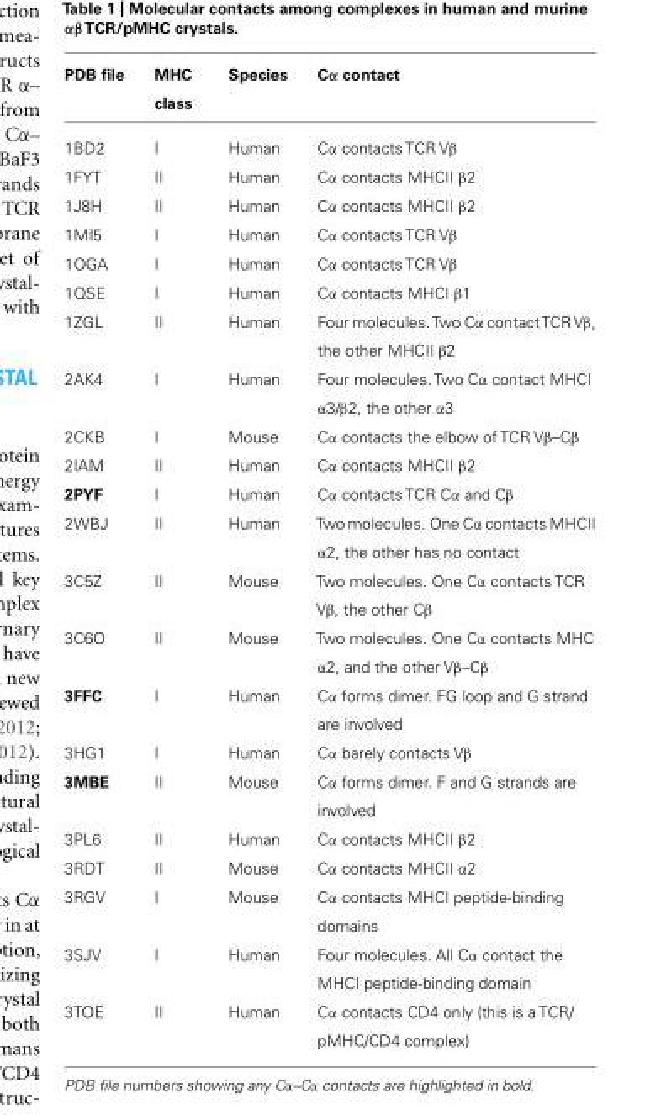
<table><thead><tr><td>PDB file</td><td>MHC class</td><td>Species</td><td>Cα contact</td></tr></thead><tbody><tr><td>1BD2</td><td>I</td><td>Human</td><td>Cα contacts TCR Vβ</td></tr><tr><td>1FYT</td><td>II</td><td>Human</td><td>Cα contacts MHCII β2</td></tr><tr><td>1J8H</td><td>II</td><td>Human</td><td>Cα contacts MHCII β2</td></tr><tr><td>1MI5</td><td>I</td><td>Human</td><td>Cα contacts TCR Vβ</td></tr><tr><td>1OGA</td><td>I</td><td>Human</td><td>Cα contacts TCR Vβ</td></tr><tr><td>1QSE</td><td>I</td><td>Human</td><td>Cα contacts MHCI β1</td></tr><tr><td>1ZGL</td><td>II</td><td>Human</td><td>Four molecules.Two Cα contactTCRVβ, the other MHCII β2</td></tr><tr><td>2AK4</td><td>I</td><td>Human</td><td>Four molecules. Two Cα contact MHCI α3/β2, the other α3</td></tr><tr><td>2CKB</td><td>I</td><td>Mouse</td><td>Cα contacts the elbow of TCR Vβ–Cβ</td></tr><tr><td>2IAM</td><td>II</td><td>Human</td><td>Cα contacts MHCII β2</td></tr><tr><td>2PYF</td><td>I</td><td>Human</td><td>Cα contacts TCR Cα and Cβ</td></tr><tr><td>2WBJ</td><td>II</td><td>Human</td><td>Two molecules. One Cα contacts MHCII α2, the other has no contact</td></tr><tr><td>3C5Z</td><td>II</td><td>Mouse</td><td>Two molecules. One Cα contacts TCR Vβ, the other Cβ</td></tr><tr><td>3C6O</td><td>II</td><td>Mouse</td><td>Two molecules. One Cα contacts MHC α2, and the other Vβ–Cβ</td></tr><tr><td>3FFC</td><td>I</td><td>Human</td><td>Cα forms dimer. FG loop and G strand are involved</td></tr><tr><td>3HG1</td><td>I</td><td>Human</td><td>Cα barely contacts Vβ</td></tr><tr><td>3MBE</td><td>II</td><td>Mouse</td><td>Cα forms dimer. F and G strands are involved</td></tr><tr><td>3PL6</td><td>II</td><td>Human</td><td>Cα contacts MHCII β2</td></tr><tr><td>3RDT</td><td>II</td><td>Mouse</td><td>Cα contacts MHCII α2</td></tr><tr><td>3RGV</td><td>I</td><td>Mouse</td><td>Cα contacts MHCI peptide-binding domains</td></tr><tr><td>3SJV</td><td>I</td><td>Human</td><td>Four molecules. All Cα contact the MHCI peptide-binding domain</td></tr><tr><td>3TOE</td><td>II</td><td>Human</td><td>Cα contacts CD4 only (this is a TCR/ pMHC/CD4 complex)</td></tr></tbody></table>